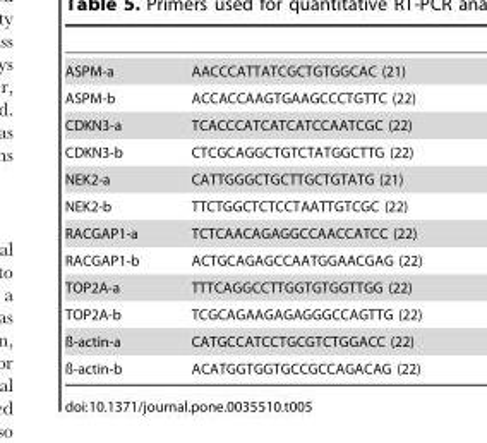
<table><tbody><tr><td>ASPM-a</td><td>AACCCATTATCGCTGTGGCAC (21)</td></tr><tr><td>ASPM-b</td><td>ACCACCAAGTGAAGCCCTGTTC (22)</td></tr><tr><td>CDKN3-a</td><td>TCACCCATCATCATCCAATCGC (22)</td></tr><tr><td>CDKN3-b</td><td>CTCGCAGGCTGTCTATGGCTTG (22)</td></tr><tr><td>NEK2-a</td><td>CATTGGGCTGCTTGCTGTATG (21)</td></tr><tr><td>NEK2-b</td><td>TTCTGGCTCTCCTAATTGTCGC (22)</td></tr><tr><td>RACGAP1-a</td><td>TCTCAACAGAGGCCAACCATCC (22)</td></tr><tr><td>RACGAP1-b</td><td>ACTGCAGAGCCAATGGAACGAG (22)</td></tr><tr><td>TOP2A-a</td><td>TTTCAGGCCTTGGTGTGGTTGG (22)</td></tr><tr><td>TOP2A-b</td><td>TCGCAGAAGAGAGGGCCAGTTG (22)</td></tr><tr><td>ß-actin-a</td><td>CATGCCATCCTGCGTCTGGACC (22)</td></tr><tr><td>ß-actin-b</td><td>ACATGGTGGTGCCGCCAGACAG (22)</td></tr></tbody></table>